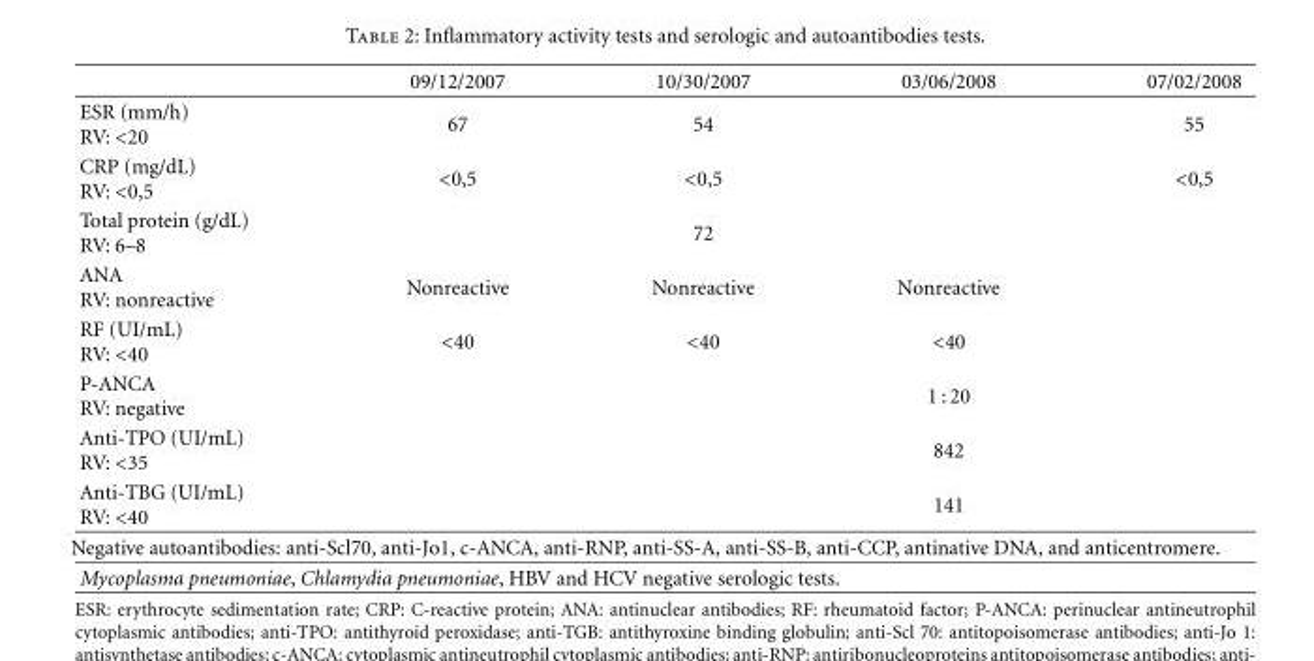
<table><thead><tr><td></td><td>09/12/2007</td><td>10/30/2007</td><td>03/06/2008</td><td>07/02/2008</td></tr></thead><tbody><tr><td>ESR (mm/h) RV: &lt;20</td><td>67</td><td>54</td><td></td><td>55</td></tr><tr><td>CRP (mg/dL) RV: &lt;0,5</td><td>&lt;0,5</td><td>&lt;0,5</td><td></td><td>&lt;0,5</td></tr><tr><td>Total protein (g/dL) RV: 6–8</td><td></td><td>72</td><td></td><td></td></tr><tr><td>ANA RV: nonreactive</td><td>Nonreactive</td><td>Nonreactive</td><td>Nonreactive</td><td></td></tr><tr><td>RF (UI/mL) RV: &lt;40</td><td>&lt;40</td><td>&lt;40</td><td>&lt;40</td><td></td></tr><tr><td>P-ANCA RV: negative</td><td></td><td></td><td>1 : 20</td><td></td></tr><tr><td>Anti-TPO (UI/mL) RV: &lt;35</td><td></td><td></td><td>842</td><td></td></tr><tr><td>Anti-TBG (UI/mL) RV: &lt;40</td><td></td><td></td><td>141</td><td></td></tr><tr><td colspan="5">Negative autoantibodies: anti-Scl70, anti-Jo1, c-ANCA, anti-RNP, anti-SS-A, anti-SS-B, anti-CCP, antinative DNA, and anticentromere.</td></tr><tr><td colspan="5">Mycoplasma pneumoniae, Chlamydia pneumoniae, HBV and HCV negative serologic tests.</td></tr></tbody></table>